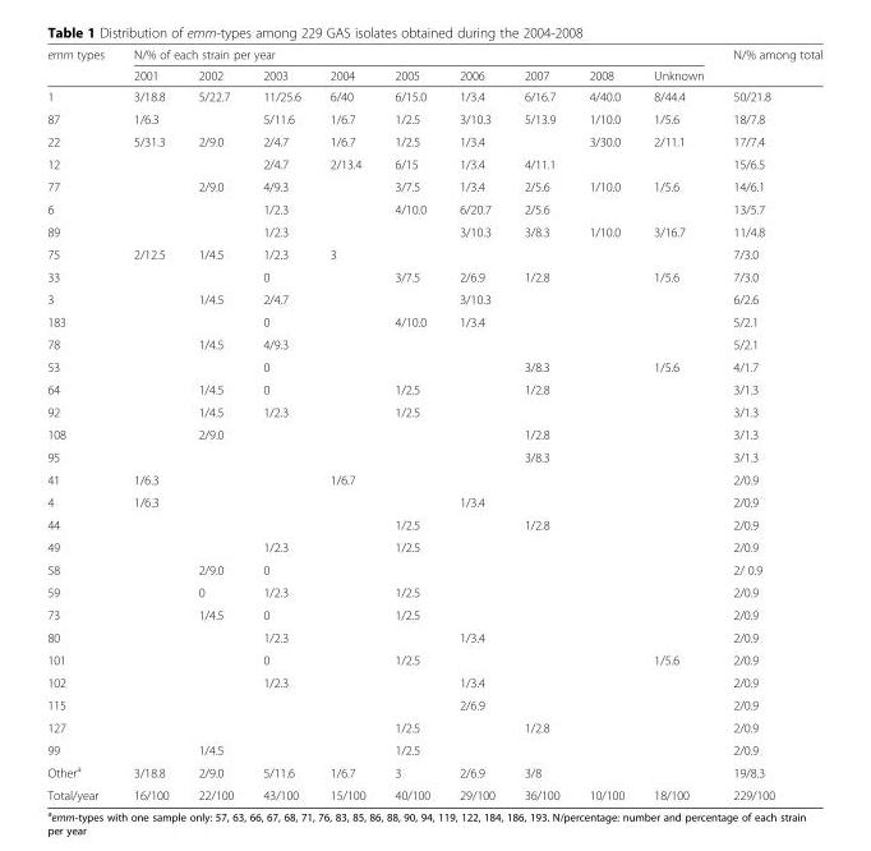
<table><thead><tr><td rowspan="2">emm types</td><td colspan="9">N/% of each strain per year</td><td rowspan="2">N/% among total</td></tr><tr><td>2001</td><td>2002</td><td>2003</td><td>2004</td><td>2005</td><td>2006</td><td>2007</td><td>2008</td><td>Unknown</td></tr></thead><tbody><tr><td>1</td><td>3/18.8</td><td>5/22.7</td><td>11/25.6</td><td>6/40</td><td>6/15.0</td><td>1/3.4</td><td>6/16.7</td><td>4/40.0</td><td>8/44.4</td><td>50/21.8</td></tr><tr><td>87</td><td>1/6.3</td><td></td><td>5/11.6</td><td>1/6.7</td><td>1/2.5</td><td>3/10.3</td><td>5/13.9</td><td>1/10.0</td><td>1/5.6</td><td>18/7.8</td></tr><tr><td>22</td><td>5/31.3</td><td>2/9.0</td><td>2/4.7</td><td>1/6.7</td><td>1/2.5</td><td>1/3.4</td><td></td><td>3/30.0</td><td>2/11.1</td><td>17/7.4</td></tr><tr><td>12</td><td></td><td></td><td>2/4.7</td><td>2/13.4</td><td>6/15</td><td>1/3.4</td><td>4/11.1</td><td></td><td></td><td>15/6.5</td></tr><tr><td>77</td><td></td><td>2/9.0</td><td>4/9.3</td><td></td><td>3/7.5</td><td>1/3.4</td><td>2/5.6</td><td>1/10.0</td><td>1/5.6</td><td>14/6.1</td></tr><tr><td>6</td><td></td><td></td><td>1/2.3</td><td></td><td>4/10.0</td><td>6/20.7</td><td>2/5.6</td><td></td><td></td><td>13/5.7</td></tr><tr><td>89</td><td></td><td></td><td>1/2.3</td><td></td><td></td><td>3/10.3</td><td>3/8.3</td><td>1/10.0</td><td>3/16.7</td><td>11/4.8</td></tr><tr><td>75</td><td>2/12.5</td><td>1/4.5</td><td>1/2.3</td><td>3</td><td></td><td></td><td></td><td></td><td></td><td>7/3.0</td></tr><tr><td>33</td><td></td><td></td><td>0</td><td></td><td>3/7.5</td><td>2/6.9</td><td>1/2.8</td><td></td><td>1/5.6</td><td>7/3.0</td></tr><tr><td>3</td><td></td><td>1/4.5</td><td>2/4.7</td><td></td><td></td><td>3/10.3</td><td></td><td></td><td></td><td>6/2.6</td></tr><tr><td>183</td><td></td><td></td><td>0</td><td></td><td>4/10.0</td><td>1/3.4</td><td></td><td></td><td></td><td>5/2.1</td></tr><tr><td>78</td><td></td><td>1/4.5</td><td>4/9.3</td><td></td><td></td><td></td><td></td><td></td><td></td><td>5/2.1</td></tr><tr><td>53</td><td></td><td></td><td>0</td><td></td><td></td><td></td><td>3/8.3</td><td></td><td>1/5.6</td><td>4/1.7</td></tr><tr><td>64</td><td></td><td>1/4.5</td><td>0</td><td></td><td>1/2.5</td><td></td><td>1/2.8</td><td></td><td></td><td>3/1.3</td></tr><tr><td>92</td><td></td><td>1/4.5</td><td>1/2.3</td><td></td><td>1/2.5</td><td></td><td></td><td></td><td></td><td>3/1.3</td></tr><tr><td>108</td><td></td><td>2/9.0</td><td></td><td></td><td></td><td></td><td>1/2.8</td><td></td><td></td><td>3/1.3</td></tr><tr><td>95</td><td></td><td></td><td></td><td></td><td></td><td></td><td>3/8.3</td><td></td><td></td><td>3/1.3</td></tr><tr><td>41</td><td>1/6.3</td><td></td><td></td><td>1/6.7</td><td></td><td></td><td></td><td></td><td></td><td>2/0.9</td></tr><tr><td>4</td><td>1/6.3</td><td></td><td></td><td></td><td></td><td>1/3.4</td><td></td><td></td><td></td><td>2/0.9</td></tr><tr><td>44</td><td></td><td></td><td></td><td></td><td>1/2.5</td><td></td><td>1/2.8</td><td></td><td></td><td>2/0.9</td></tr><tr><td>49</td><td></td><td></td><td>1/2.3</td><td></td><td>1/2.5</td><td></td><td></td><td></td><td></td><td>2/0.9</td></tr><tr><td>58</td><td></td><td>2/9.0</td><td>0</td><td></td><td></td><td></td><td></td><td></td><td></td><td>2/ 0.9</td></tr><tr><td>59</td><td></td><td>0</td><td>1/2.3</td><td></td><td>1/2.5</td><td></td><td></td><td></td><td></td><td>2/0.9</td></tr><tr><td>73</td><td></td><td>1/4.5</td><td>0</td><td></td><td>1/2.5</td><td></td><td></td><td></td><td></td><td>2/0.9</td></tr><tr><td>80</td><td></td><td></td><td>1/2.3</td><td></td><td></td><td>1/3.4</td><td></td><td></td><td></td><td>2/0.9</td></tr><tr><td>101</td><td></td><td></td><td>0</td><td></td><td>1/2.5</td><td></td><td></td><td></td><td>1/5.6</td><td>2/0.9</td></tr><tr><td>102</td><td></td><td></td><td>1/2.3</td><td></td><td></td><td>1/3.4</td><td></td><td></td><td></td><td>2/0.9</td></tr><tr><td>115</td><td></td><td></td><td></td><td></td><td></td><td>2/6.9</td><td></td><td></td><td></td><td>2/0.9</td></tr><tr><td>127</td><td></td><td></td><td></td><td></td><td>1/2.5</td><td></td><td>1/2.8</td><td></td><td></td><td>2/0.9</td></tr><tr><td>99</td><td></td><td>1/4.5</td><td></td><td></td><td>1/2.5</td><td></td><td></td><td></td><td></td><td>2/0.9</td></tr><tr><td>Other<sup>a</sup></td><td>3/18.8</td><td>2/9.0</td><td>5/11.6</td><td>1/6.7</td><td>3</td><td>2/6.9</td><td>3/8</td><td></td><td></td><td>19/8.3</td></tr><tr><td>Total/year</td><td>16/100</td><td>22/100</td><td>43/100</td><td>15/100</td><td>40/100</td><td>29/100</td><td>36/100</td><td>10/100</td><td>18/100</td><td>229/100</td></tr></tbody></table>